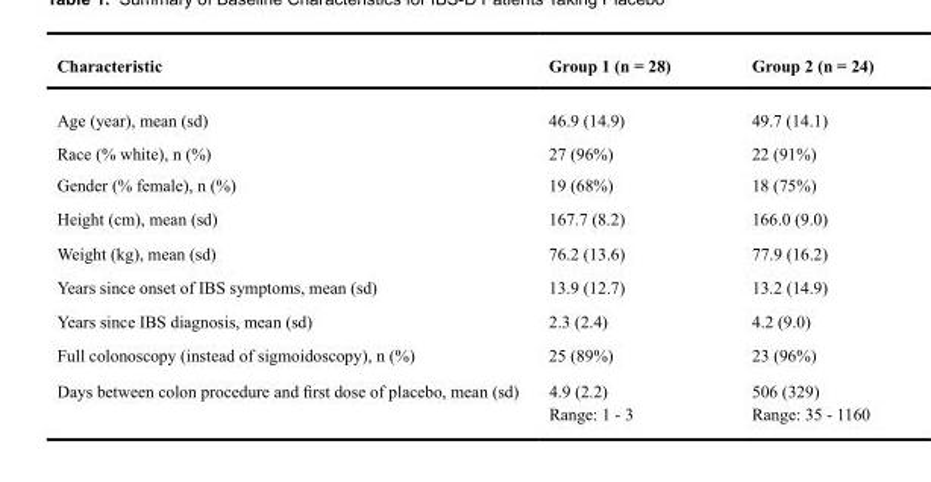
<table><thead><tr><td>Characteristic</td><td>Group 1 (n = 28)</td><td>Group 2 (n = 24)</td></tr></thead><tbody><tr><td>Age (year), mean (sd)</td><td>46.9 (14.9)</td><td>49.7 (14.1)</td></tr><tr><td>Race (% white), n (%)</td><td>27 (96%)</td><td>22 (91%)</td></tr><tr><td>Gender (% female), n (%)</td><td>19 (68%)</td><td>18 (75%)</td></tr><tr><td>Height (cm), mean (sd)</td><td>167.7 (8.2)</td><td>166.0 (9.0)</td></tr><tr><td>Weight (kg), mean (sd)</td><td>76.2 (13.6)</td><td>77.9 (16.2)</td></tr><tr><td>Years since onset of IBS symptoms, mean (sd)</td><td>13.9 (12.7)</td><td>13.2 (14.9)</td></tr><tr><td>Years since IBS diagnosis, mean (sd)</td><td>2.3 (2.4)</td><td>4.2 (9.0)</td></tr><tr><td>Full colonoscopy (instead of sigmoidoscopy), n (%)</td><td>25 (89%)</td><td>23 (96%)</td></tr><tr><td>Days between colon procedure and first dose of placebo, mean (sd)</td><td>4.9 (2.2) Range: 1 - 3</td><td>506 (329) Range: 35 - 1160</td></tr></tbody></table>